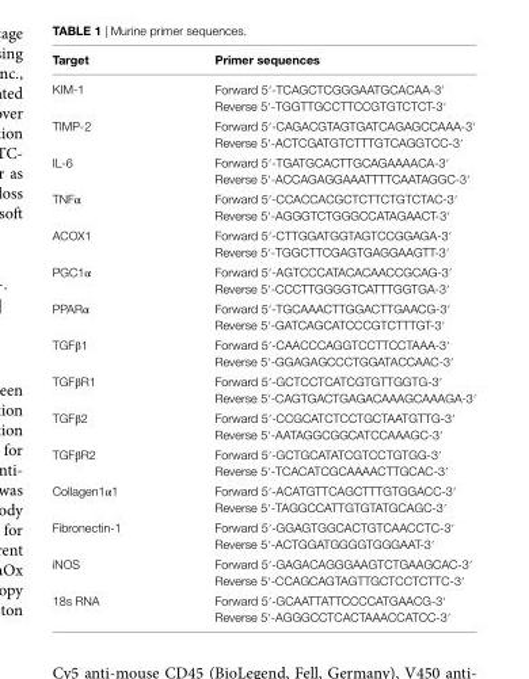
<table><thead><tr><td>Target</td><td>Primer sequences</td></tr></thead><tbody><tr><td>KIM-1</td><td>Forward 5′-TCAGCTCGGGAATGCACAA-3′ Reverse 5′-TGGTTGCCTTCCGTGTCTCT-3′</td></tr><tr><td>TIMP-2</td><td>Forward 5′-CAGACGTAGTGATCAGAGCCAAA-3′ Reverse 5′-ACTCGATGTCTTTGTCAGGTCC-3′</td></tr><tr><td>IL-6</td><td>Forward 5′-TGATGCACTTGCAGAAAACA-3′ Reverse 5′-ACCAGAGGAAATTTTCAATAGGC-3′</td></tr><tr><td>TNFα</td><td>Forward 5′-CCACCACGCTCTTCTGTCTAC-3′ Reverse 5′-AGGGTCTGGGCCATAGAACT-3′</td></tr><tr><td>ACOX1</td><td>Forward 5′-CTTGGATGGTAGTCCGGAGA-3′ Reverse 5′-TGGCTTCGAGTGAGGAAGTT-3′</td></tr><tr><td>PGC1α</td><td>Forward 5′-AGTCCCATACACAACCGCAG-3′ Reverse 5′-CCCTTGGGGTCATTTGGTGA-3′</td></tr><tr><td>PPARα</td><td>Forward 5′-TGCAAACTTGGACTTGAACG-3′ Reverse 5′-GATCAGCATCCCGTCTTTGT-3′</td></tr><tr><td>TGFβ1</td><td>Forward 5′-CAACCCAGGTCCTTCCTAAA-3′ Reverse 5′-GGAGAGCCCTGGATACCAAC-3′</td></tr><tr><td>TGFβR1</td><td>Forward 5′-GCTCCTCATCGTGTTGGTG-3′ Reverse 5′-CAGTGACTGAGACAAAGCAAAGA-3′</td></tr><tr><td>TGFβ2</td><td>Forward 5′-CCGCATCTCCTGCTAATGTTG-3′ Reverse 5′-AATAGGCGGCATCCAAAGC-3′</td></tr><tr><td>TGFβR2</td><td>Forward 5′-GCTGCATATCGTCCTGTGG-3′ Reverse 5′-TCACATCGCAAAACTTGCAC-3′</td></tr><tr><td>Collagen1α1</td><td>Forward 5′-ACATGTTCAGCTTTGTGGACC-3′ Reverse 5′-TAGGCCATTGTGTATGCAGC-3′</td></tr><tr><td>Fibronectin-1</td><td>Forward 5′-GGAGTGGCACTGTCAACCTC-3′ Reverse 5′-ACTGGATGGGGTGGGAAT-3′</td></tr><tr><td>iNOS</td><td>Forward 5′-GAGACAGGGAAGTCTGAAGCAC-3′ Reverse 5′-CCAGCAGTAGTTGCTCCTCTTC-3′</td></tr><tr><td>18s RNA</td><td>Forward 5′-GCAATTATTCCCCATGAACG-3′ Reverse 5′-AGGGCCTCACTAAACCATCC-3′</td></tr></tbody></table>